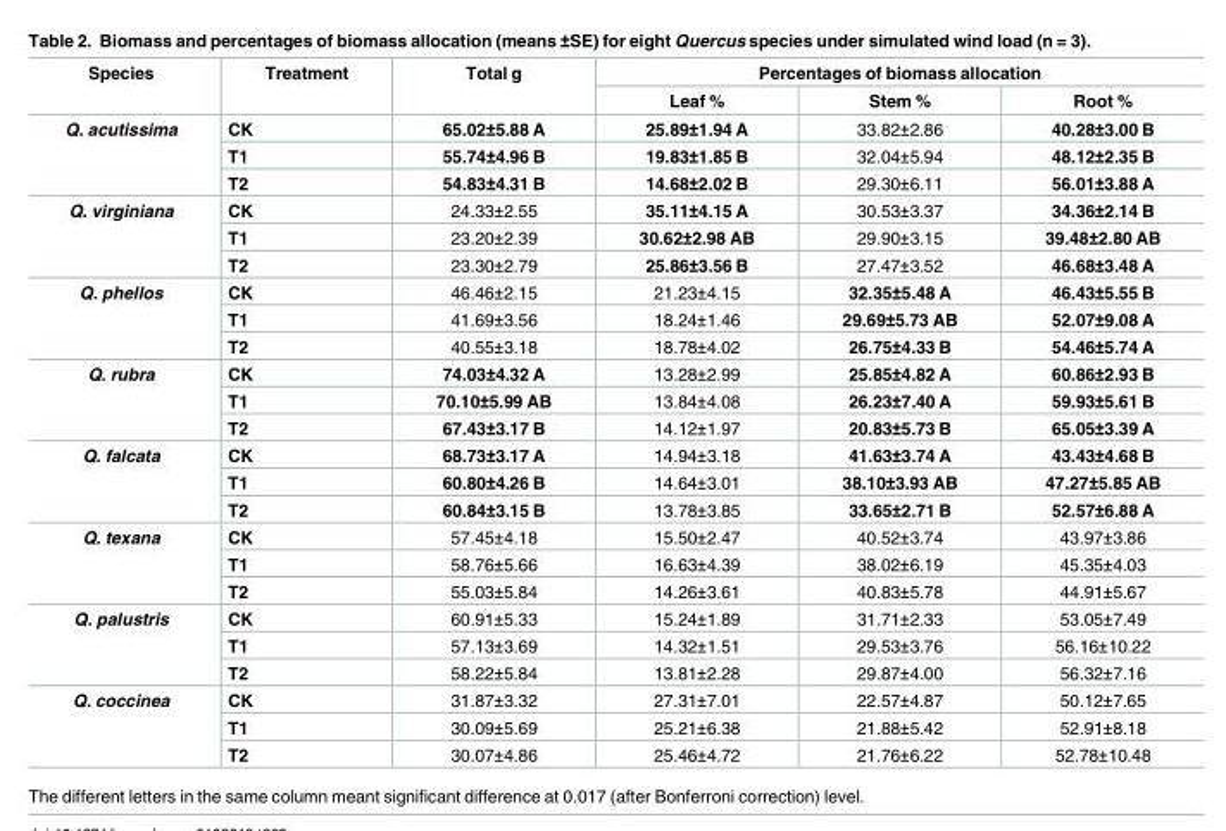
<table><thead><tr><td rowspan="2">Species</td><td rowspan="2">Treatment</td><td rowspan="2">Total g</td><td colspan="3">Percentages of biomass allocation</td></tr><tr><td>Leaf %</td><td>Stem %</td><td>Root %</td></tr></thead><tbody><tr><td rowspan="3">Q. acutissima</td><td>CK</td><td>65.02±5.88 A</td><td>25.89±1.94 A</td><td>33.82±2.86</td><td>40.28±3.00 B</td></tr><tr><td>T1</td><td>55.74±4.96 B</td><td>19.83±1.85 B</td><td>32.04±5.94</td><td>48.12±2.35 B</td></tr><tr><td>T2</td><td>54.83±4.31 B</td><td>14.68±2.02 B</td><td>29.30±6.11</td><td>56.01±3.88 A</td></tr><tr><td rowspan="3">Q. virginiana</td><td>CK</td><td>24.33±2.55</td><td>35.11±4.15 A</td><td>30.53±3.37</td><td>34.36±2.14 B</td></tr><tr><td>T1</td><td>23.20±2.39</td><td>30.62±2.98 AB</td><td>29.90±3.15</td><td>39.48±2.80 AB</td></tr><tr><td>T2</td><td>23.30±2.79</td><td>25.86±3.56 B</td><td>27.47±3.52</td><td>46.68±3.48 A</td></tr><tr><td rowspan="3">Q. phellos</td><td>CK</td><td>46.46±2.15</td><td>21.23±4.15</td><td>32.35±5.48 A</td><td>46.43±5.55 B</td></tr><tr><td>T1</td><td>41.69±3.56</td><td>18.24±1.46</td><td>29.69±5.73 AB</td><td>52.07±9.08 A</td></tr><tr><td>T2</td><td>40.55±3.18</td><td>18.78±4.02</td><td>26.75±4.33 B</td><td>54.46±5.74 A</td></tr><tr><td rowspan="3">Q. rubra</td><td>CK</td><td>74.03±4.32 A</td><td>13.28±2.99</td><td>25.85±4.82 A</td><td>60.86±2.93 B</td></tr><tr><td>T1</td><td>70.10±5.99 AB</td><td>13.84±4.08</td><td>26.23±7.40 A</td><td>59.93±5.61 B</td></tr><tr><td>T2</td><td>67.43±3.17 B</td><td>14.12±1.97</td><td>20.83±5.73 B</td><td>65.05±3.39 A</td></tr><tr><td rowspan="3">Q. falcata</td><td>CK</td><td>68.73±3.17 A</td><td>14.94±3.18</td><td>41.63±3.74 A</td><td>43.43±4.68 B</td></tr><tr><td>T1</td><td>60.80±4.26 B</td><td>14.64±3.01</td><td>38.10±3.93 AB</td><td>47.27±5.85 AB</td></tr><tr><td>T2</td><td>60.84±3.15 B</td><td>13.78±3.85</td><td>33.65±2.71 B</td><td>52.57±6.88 A</td></tr><tr><td rowspan="3">Q. texana</td><td>CK</td><td>57.45±4.18</td><td>15.50±2.47</td><td>40.52±3.74</td><td>43.97±3.86</td></tr><tr><td>T1</td><td>58.76±5.66</td><td>16.63±4.39</td><td>38.02±6.19</td><td>45.35±4.03</td></tr><tr><td>T2</td><td>55.03±5.84</td><td>14.26±3.61</td><td>40.83±5.78</td><td>44.91±5.67</td></tr><tr><td rowspan="3">Q. palustris</td><td>CK</td><td>60.91±5.33</td><td>15.24±1.89</td><td>31.71±2.33</td><td>53.05±7.49</td></tr><tr><td>T1</td><td>57.13±3.69</td><td>14.32±1.51</td><td>29.53±3.76</td><td>56.16±10.22</td></tr><tr><td>T2</td><td>58.22±5.84</td><td>13.81±2.28</td><td>29.87±4.00</td><td>56.32±7.16</td></tr><tr><td rowspan="3">Q. coccinea</td><td>CK</td><td>31.87±3.32</td><td>27.31±7.01</td><td>22.57±4.87</td><td>50.12±7.65</td></tr><tr><td>T1</td><td>30.09±5.69</td><td>25.21±6.38</td><td>21.88±5.42</td><td>52.91±8.18</td></tr><tr><td>T2</td><td>30.07±4.86</td><td>25.46±4.72</td><td>21.76±6.22</td><td>52.78±10.48</td></tr></tbody></table>